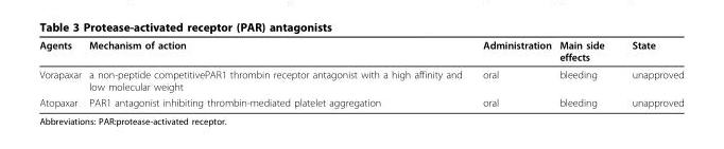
<table><thead><tr><td>Agents</td><td>Mechanism of action</td><td>Administration</td><td>Main side effects</td><td>State</td></tr></thead><tbody><tr><td>Vorapaxar</td><td>a non-peptide competitivePAR1 thrombin receptor antagonist with a high affinity and low molecular weight</td><td>oral</td><td>bleeding</td><td>unapproved</td></tr><tr><td>Atopaxar</td><td>PAR1 antagonist inhibiting thrombin-mediated platelet aggregation</td><td>oral</td><td>bleeding</td><td>unapproved</td></tr></tbody></table>